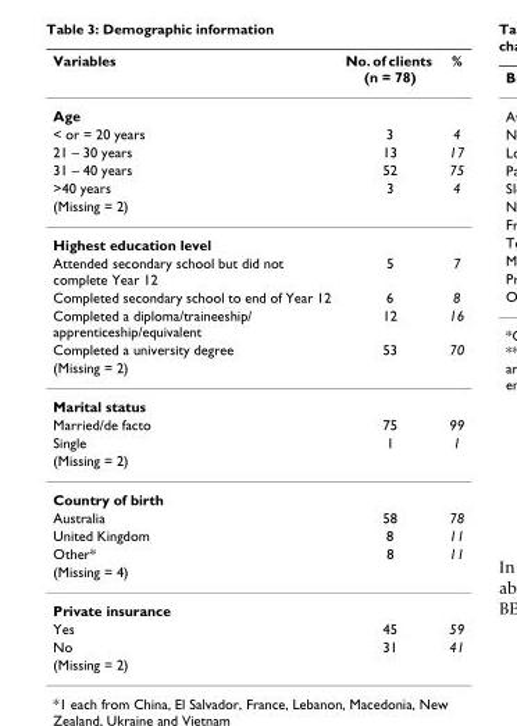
<table><thead><tr><td>Variables</td><td>No. of clients (n = 78)</td><td>%</td></tr></thead><tbody><tr><td colspan="3">Age</td></tr><tr><td>&lt; or = 20 years</td><td>3</td><td>4</td></tr><tr><td>21 – 30 years</td><td>13</td><td>17</td></tr><tr><td>31 – 40 years</td><td>52</td><td>75</td></tr><tr><td>&gt;40 years</td><td>3</td><td>4</td></tr><tr><td colspan="3">(Missing = 2)</td></tr><tr><td colspan="3">Highest education level</td></tr><tr><td>Attended secondary school but did not complete Year 12</td><td>5</td><td>7</td></tr><tr><td>Completed secondary school to end of Year 12</td><td>6</td><td>8</td></tr><tr><td>Completed a diploma/traineeship/ apprenticeship/equivalent</td><td>12</td><td>16</td></tr><tr><td>Completed a university degree</td><td>53</td><td>70</td></tr><tr><td colspan="3">(Missing = 2)</td></tr><tr><td colspan="3">Marital status</td></tr><tr><td>Married/de facto</td><td>75</td><td>99</td></tr><tr><td>Single</td><td>1</td><td>1</td></tr><tr><td colspan="3">(Missing = 2)</td></tr><tr><td colspan="3">Country of birth</td></tr><tr><td>Australia</td><td>58</td><td>78</td></tr><tr><td>United Kingdom</td><td>8</td><td>11</td></tr><tr><td>Other*</td><td>8</td><td>11</td></tr><tr><td colspan="3">(Missing = 4)</td></tr><tr><td colspan="3">Private insurance</td></tr><tr><td>Yes</td><td>45</td><td>59</td></tr><tr><td>No</td><td>31</td><td>41</td></tr><tr><td>(Missing = 2)</td><td></td><td></td></tr></tbody></table>